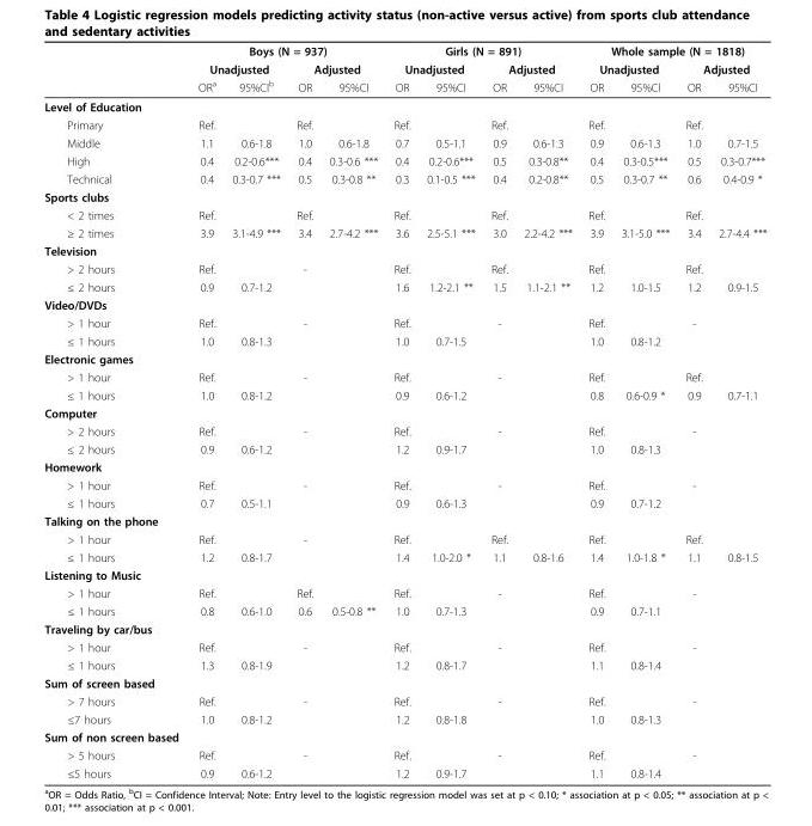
<table><thead><tr><td rowspan="3"></td><td colspan="4">Boys (N = 937)</td><td colspan="4">Girls (N = 891)</td><td colspan="4">Whole sample (N = 1818)</td></tr><tr><td colspan="2">Unadjusted</td><td colspan="2">Adjusted</td><td colspan="2">Unadjusted</td><td colspan="2">Adjusted</td><td colspan="2">Unadjusted</td><td colspan="2">Adjusted</td></tr><tr><td>OR<sup>a</sup></td><td>95%CI<sup>b</sup></td><td>OR</td><td>95%CI</td><td>OR</td><td>95%CI</td><td>OR</td><td>95%CI</td><td>OR</td><td>95%CI</td><td>OR</td><td>95%CI</td></tr></thead><tbody><tr><td colspan="13">Level of Education</td></tr><tr><td>Primary</td><td>Ref.</td><td></td><td>Ref.</td><td></td><td>Ref.</td><td></td><td>Ref.</td><td></td><td>Ref.</td><td></td><td>Ref.</td><td></td></tr><tr><td>Middle</td><td>1.1</td><td>0.6-1.8</td><td>1.0</td><td>0.6-1.8</td><td>0.7</td><td>0.5-1.1</td><td>0.9</td><td>0.6-1.3</td><td>0.9</td><td>0.6-1.3</td><td>1.0</td><td>0.7-1.5</td></tr><tr><td>High</td><td>0.4</td><td>0.2-0.6***</td><td>0.4</td><td>0.3-0.6 ***</td><td>0.4</td><td>0.2-0.6***</td><td>0.5</td><td>0.3-0.8**</td><td>0.4</td><td>0.3-0.5***</td><td>0.5</td><td>0.3-0.7***</td></tr><tr><td>Technical</td><td>0.4</td><td>0.3-0.7 ***</td><td>0.5</td><td>0.3-0.8 **</td><td>0.3</td><td>0.1-0.5 ***</td><td>0.4</td><td>0.2-0.8**</td><td>0.5</td><td>0.3-0.7 **</td><td>0.6</td><td>0.4-0.9 *</td></tr><tr><td colspan="13">Sports clubs</td></tr><tr><td>&lt; 2 times</td><td>Ref.</td><td></td><td>Ref.</td><td></td><td>Ref.</td><td></td><td>Ref.</td><td></td><td>Ref.</td><td></td><td>Ref.</td><td></td></tr><tr><td>≥ 2 times</td><td>3.9</td><td>3.1-4.9 ***</td><td>3.4</td><td>2.7-4.2 ***</td><td>3.6</td><td>2.5-5.1 ***</td><td>3.0</td><td>2.2-4.2 ***</td><td>3.9</td><td>3.1-5.0 ***</td><td>3.4</td><td>2.7-4.4 ***</td></tr><tr><td colspan="13">Television</td></tr><tr><td>&gt; 2 hours</td><td>Ref.</td><td></td><td>-</td><td></td><td>Ref.</td><td></td><td>Ref.</td><td></td><td>Ref.</td><td></td><td>Ref.</td><td></td></tr><tr><td>≤ 2 hours</td><td>0.9</td><td>0.7-1.2</td><td></td><td></td><td>1.6</td><td>1.2-2.1 **</td><td>1.5</td><td>1.1-2.1 **</td><td>1.2</td><td>1.0-1.5</td><td>1.2</td><td>0.9-1.5</td></tr><tr><td colspan="13">Video/DVDs</td></tr><tr><td>&gt; 1 hour</td><td>Ref.</td><td></td><td>-</td><td></td><td>Ref.</td><td></td><td>-</td><td></td><td>Ref.</td><td></td><td>-</td><td></td></tr><tr><td>≤ 1 hours</td><td>1.0</td><td>0.8-1.3</td><td></td><td></td><td>1.0</td><td>0.7-1.5</td><td></td><td></td><td>1.0</td><td>0.8-1.2</td><td></td><td></td></tr><tr><td colspan="13">Electronic games</td></tr><tr><td>&gt; 1 hour</td><td>Ref.</td><td></td><td>-</td><td></td><td>Ref.</td><td></td><td>-</td><td></td><td>Ref.</td><td></td><td>Ref.</td><td></td></tr><tr><td>≤ 1 hours</td><td>1.0</td><td>0.8-1.2</td><td></td><td></td><td>0.9</td><td>0.6-1.2</td><td></td><td></td><td>0.8</td><td>0.6-0.9 *</td><td>0.9</td><td>0.7-1.1</td></tr><tr><td colspan="13">Computer</td></tr><tr><td>&gt; 2 hours</td><td>Ref.</td><td></td><td>-</td><td></td><td>Ref.</td><td></td><td>-</td><td></td><td>Ref.</td><td></td><td>-</td><td></td></tr><tr><td>≤ 2 hours</td><td>0.9</td><td>0.6-1.2</td><td></td><td></td><td>1.2</td><td>0.9-1.7</td><td></td><td></td><td>1.0</td><td>0.8-1.3</td><td></td><td></td></tr><tr><td colspan="13">Homework</td></tr><tr><td>&gt; 1 hour</td><td>Ref.</td><td></td><td>-</td><td></td><td>Ref.</td><td></td><td>-</td><td></td><td>Ref.</td><td></td><td>-</td><td></td></tr><tr><td>≤ 1 hours</td><td>0.7</td><td>0.5-1.1</td><td></td><td></td><td>0.9</td><td>0.6-1.3</td><td></td><td></td><td>0.9</td><td>0.7-1.2</td><td></td><td></td></tr><tr><td colspan="13">Talking on the phone</td></tr><tr><td>&gt; 1 hour</td><td>Ref.</td><td></td><td>-</td><td></td><td>Ref.</td><td></td><td>Ref.</td><td></td><td>Ref.</td><td></td><td>Ref.</td><td></td></tr><tr><td>≤ 1 hours</td><td>1.2</td><td>0.8-1.7</td><td></td><td></td><td>1.4</td><td>1.0-2.0 *</td><td>1.1</td><td>0.8-1.6</td><td>1.4</td><td>1.0-1.8 *</td><td>1.1</td><td>0.8-1.5</td></tr><tr><td colspan="13">Listening to Music</td></tr><tr><td>&gt; 1 hour</td><td>Ref.</td><td></td><td>Ref.</td><td></td><td>Ref.</td><td></td><td>-</td><td></td><td>Ref.</td><td></td><td>-</td><td></td></tr><tr><td>≤ 1 hours</td><td>0.8</td><td>0.6-1.0</td><td>0.6</td><td>0.5-0.8 **</td><td>1.0</td><td>0.7-1.3</td><td></td><td></td><td>0.9</td><td>0.7-1.1</td><td></td><td></td></tr><tr><td colspan="13">Traveling by car/bus</td></tr><tr><td>&gt; 1 hour</td><td>Ref.</td><td></td><td>-</td><td></td><td>Ref.</td><td></td><td>-</td><td></td><td>Ref.</td><td></td><td>-</td><td></td></tr><tr><td>≤ 1 hours</td><td>1.3</td><td>0.8-1.9</td><td></td><td></td><td>1.2</td><td>0.8-1.7</td><td></td><td></td><td>1.1</td><td>0.8-1.4</td><td></td><td></td></tr><tr><td colspan="13">Sum of screen based</td></tr><tr><td>&gt; 7 hours</td><td>Ref.</td><td></td><td>-</td><td></td><td>Ref.</td><td></td><td>-</td><td></td><td>Ref.</td><td></td><td>-</td><td></td></tr><tr><td>≤7 hours</td><td>1.0</td><td>0.8-1.2</td><td></td><td></td><td>1.2</td><td>0.8-1.8</td><td></td><td></td><td>1.0</td><td>0.8-1.3</td><td></td><td></td></tr><tr><td colspan="13">Sum of non screen based</td></tr><tr><td>&gt; 5 hours</td><td>Ref.</td><td></td><td>-</td><td></td><td>Ref.</td><td></td><td>-</td><td></td><td>Ref.</td><td></td><td>-</td><td></td></tr><tr><td>≤5 hours</td><td>0.9</td><td>0.6-1.2</td><td></td><td></td><td>1.2</td><td>0.9-1.7</td><td></td><td></td><td>1.1</td><td>0.8-1.4</td><td></td><td></td></tr></tbody></table>